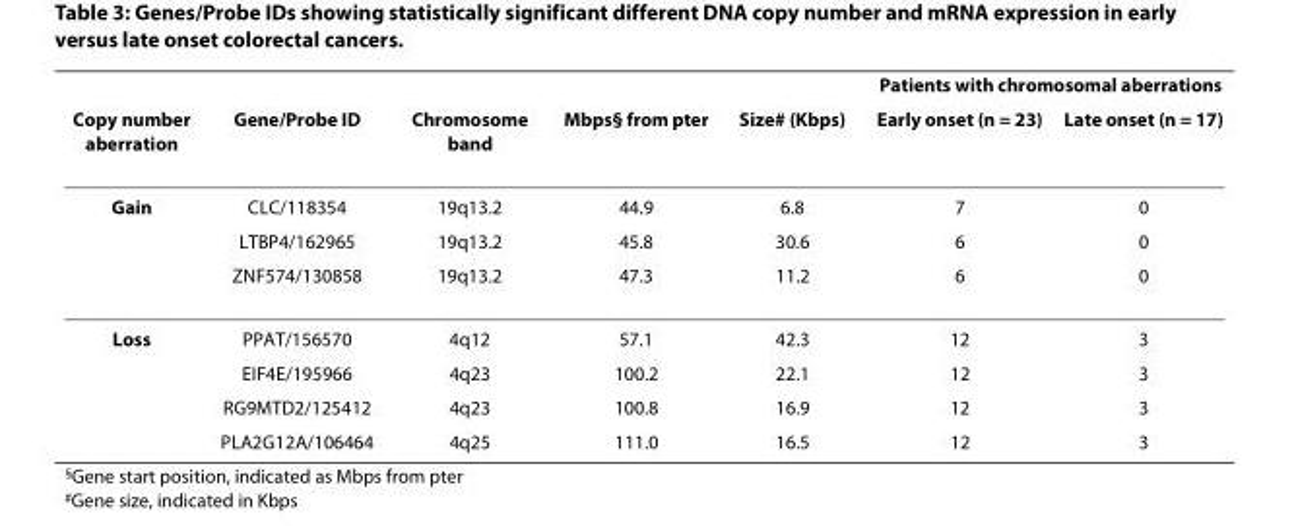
<table><thead><tr><td rowspan="2">Copy number aberration</td><td rowspan="2">Gene/Probe ID</td><td rowspan="2">Chromosome band</td><td rowspan="2">Mbps§ from pter</td><td rowspan="2">Size# (Kbps)</td><td colspan="2">Patients with chromosomal aberrations</td></tr><tr><td>Early onset (n = 23)</td><td>Late onset (n = 17)</td></tr></thead><tbody><tr><td rowspan="3">Gain</td><td>CLC/118354</td><td>19q13.2</td><td>44.9</td><td>6.8</td><td>7</td><td>0</td></tr><tr><td>LTBP4/162965</td><td>19q13.2</td><td>45.8</td><td>30.6</td><td>6</td><td>0</td></tr><tr><td>ZNF574/130858</td><td>19q13.2</td><td>47.3</td><td>11.2</td><td>6</td><td>0</td></tr><tr><td rowspan="4">Loss</td><td>PPAT/156570</td><td>4q12</td><td>57.1</td><td>42.3</td><td>12</td><td>3</td></tr><tr><td>EIF4E/195966</td><td>4q23</td><td>100.2</td><td>22.1</td><td>12</td><td>3</td></tr><tr><td>RG9MTD2/125412</td><td>4q23</td><td>100.8</td><td>16.9</td><td>12</td><td>3</td></tr><tr><td>PLA2G12A/106464</td><td>4q25</td><td>111.0</td><td>16.5</td><td>12</td><td>3</td></tr></tbody></table>